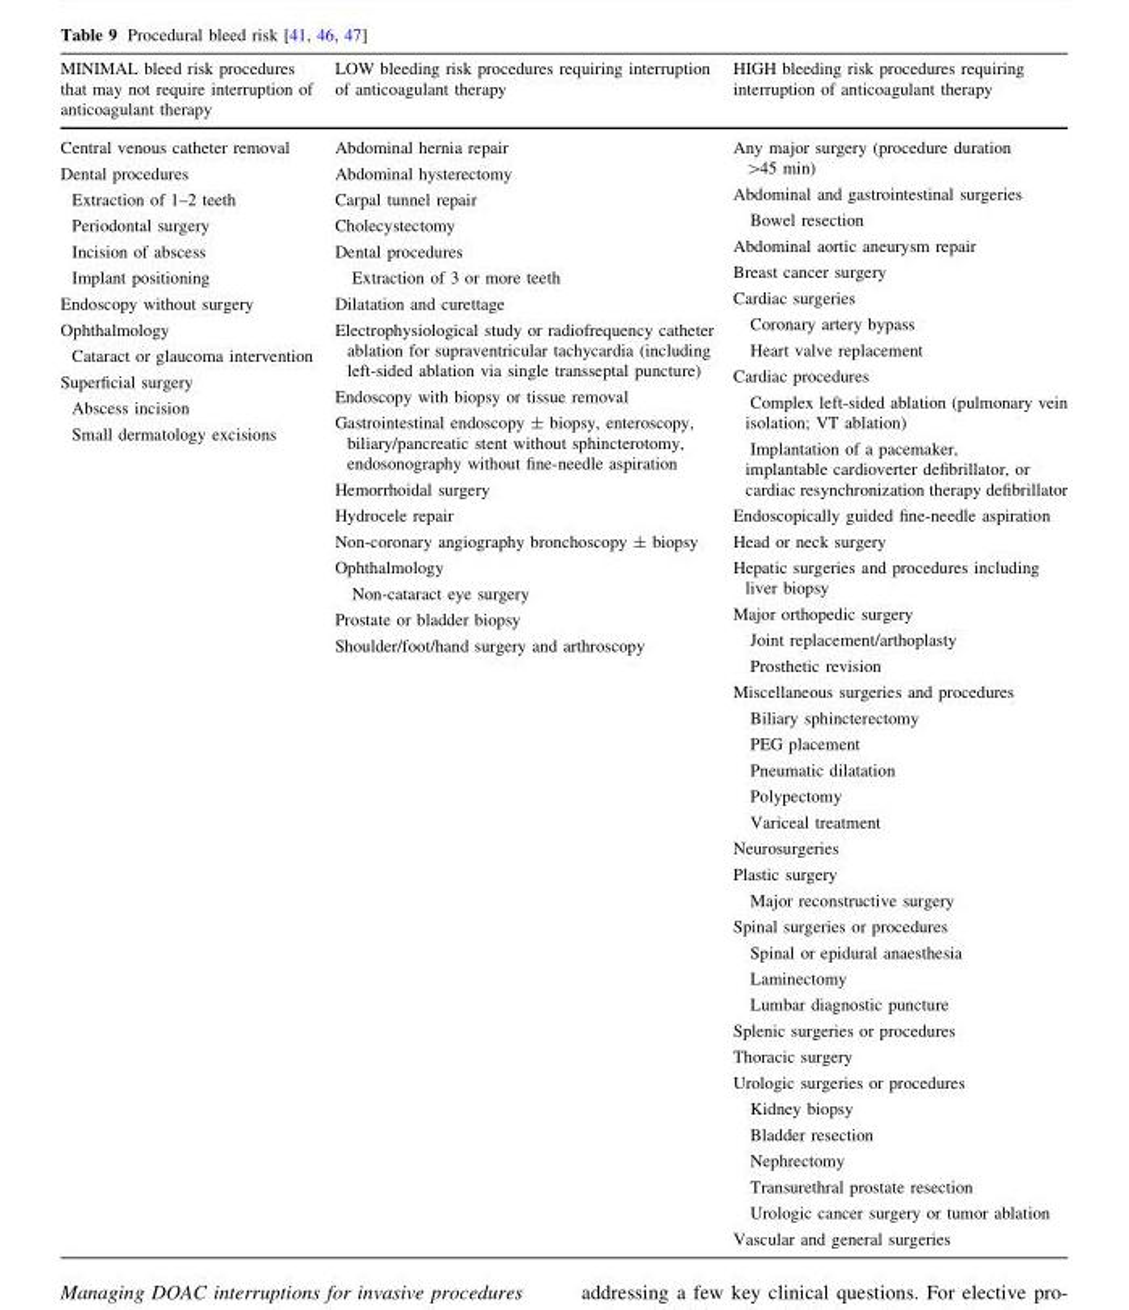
<table><thead><tr><td>MINIMAL bleed risk procedures that may not require interruption of anticoagulant therapy</td><td>LOW bleeding risk procedures requiring interruption of anticoagulant therapy</td><td>HIGH bleeding risk procedures requiring interruption of anticoagulant therapy</td></tr></thead><tbody><tr><td>Central venous catheter removal Dental procedures Extraction of 1–2 teeth Periodontal surgery Incision of abscess Implant positioning Endoscopy without surgery Ophthalmology Cataract or glaucoma intervention Superficial surgery Abscess incision Small dermatology excisions</td><td>Abdominal hernia repair Abdominal hysterectomy Carpal tunnel repair Cholecystectomy Dental procedures Extraction of 3 or more teeth Dilatation and curettage Electrophysiological study or radiofrequency catheter ablation for supraventricular tachycardia (including left-sided ablation via single transseptal puncture) Endoscopy with biopsy or tissue removal Gastrointestinal endoscopy ± biopsy, enteroscopy, biliary/pancreatic stent without sphincterotomy, endosonography without fine-needle aspiration Hemorrhoidal surgery Hydrocele repair Non-coronary angiography bronchoscopy ± biopsy Ophthalmology Non-cataract eye surgery Prostate or bladder biopsy Shoulder/foot/hand surgery and arthroscopy</td><td>Any major surgery (procedure duration &gt;45 min) Abdominal and gastrointestinal surgeries Bowel resection Abdominal aortic aneurysm repair Breast cancer surgery Cardiac surgeries Coronary artery bypass Heart valve replacement Cardiac procedures Complex left-sided ablation (pulmonary vein isolation; VT ablation) Implantation of a pacemaker, implantable cardioverter defibrillator, or cardiac resynchronization therapy defibrillator Endoscopically guided fine-needle aspiration Head or neck surgery Hepatic surgeries and procedures including liver biopsy Major orthopedic surgery Joint replacement/arthoplasty Prosthetic revision Miscellaneous surgeries and procedures Biliary sphincterectomy PEG placement Pneumatic dilatation Polypectomy Variceal treatment Neurosurgeries Plastic surgery Major reconstructive surgery Spinal surgeries or procedures Spinal or epidural anaesthesia Laminectomy Lumbar diagnostic puncture Splenic surgeries or procedures Thoracic surgery Urologic surgeries or procedures Kidney biopsy Bladder resection Nephrectomy Transurethral prostate resection Urologic cancer surgery or tumor ablation Vascular and general surgeries</td></tr></tbody></table>